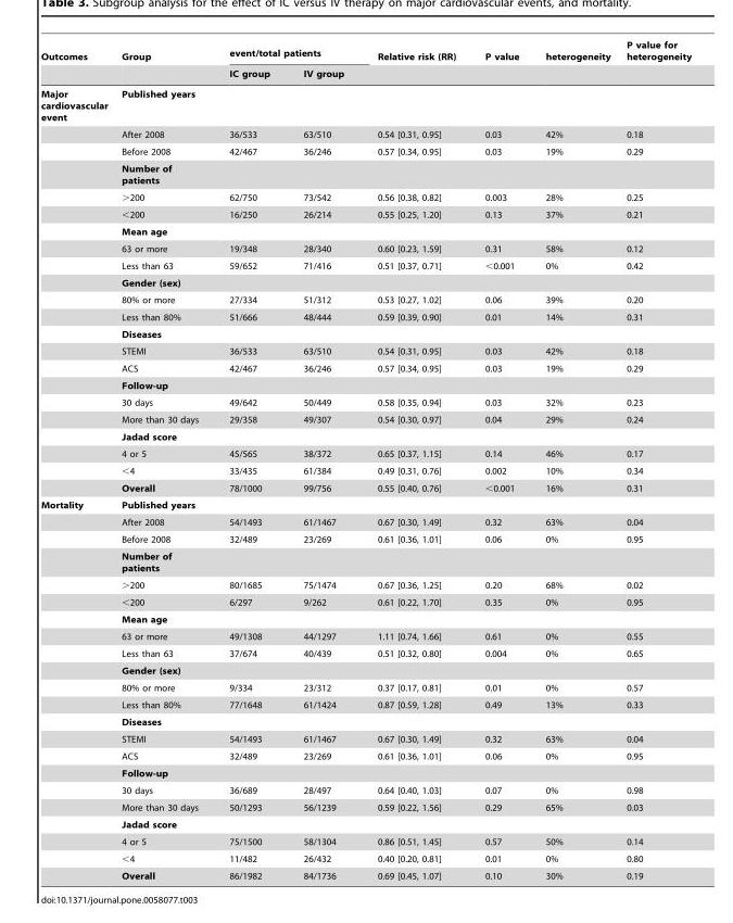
<table><thead><tr><td rowspan="2">Outcomes</td><td rowspan="2">Group</td><td colspan="2">event/total patients</td><td rowspan="2">Relative risk (RR)</td><td rowspan="2">P value</td><td rowspan="2">heterogeneity</td><td rowspan="2">P value for heterogeneity</td></tr><tr><td>IC group</td><td>IV group</td></tr></thead><tbody><tr><td rowspan="22">Major cardiovascular event</td><td colspan="7">Published years</td></tr><tr><td>After 2008</td><td>36/533</td><td>63/510</td><td>0.54 [0.31, 0.95]</td><td>0.03</td><td>42%</td><td>0.18</td></tr><tr><td>Before 2008</td><td>42/467</td><td>36/246</td><td>0.57 [0.34, 0.95]</td><td>0.03</td><td>19%</td><td>0.29</td></tr><tr><td colspan="7">Number of patients</td></tr><tr><td>&gt;200</td><td>62/750</td><td>73/542</td><td>0.56 [0.38, 0.82]</td><td>0.003</td><td>28%</td><td>0.25</td></tr><tr><td>&lt;200</td><td>16/250</td><td>26/214</td><td>0.55 [0.25, 1.20]</td><td>0.13</td><td>37%</td><td>0.21</td></tr><tr><td colspan="7">Mean age</td></tr><tr><td>63 or more</td><td>19/348</td><td>28/340</td><td>0.60 [0.23, 1.59]</td><td>0.31</td><td>58%</td><td>0.12</td></tr><tr><td>Less than 63</td><td>59/652</td><td>71/416</td><td>0.51 [0.37, 0.71]</td><td>&lt;0.001</td><td>0%</td><td>0.42</td></tr><tr><td colspan="7">Gender (sex)</td></tr><tr><td>80% or more</td><td>27/334</td><td>51/312</td><td>0.53 [0.27, 1.02]</td><td>0.06</td><td>39%</td><td>0.20</td></tr><tr><td>Less than 80%</td><td>51/666</td><td>48/444</td><td>0.59 [0.39, 0.90]</td><td>0.01</td><td>14%</td><td>0.31</td></tr><tr><td colspan="7">Diseases</td></tr><tr><td>STEMI</td><td>36/533</td><td>63/510</td><td>0.54 [0.31, 0.95]</td><td>0.03</td><td>42%</td><td>0.18</td></tr><tr><td>ACS</td><td>42/467</td><td>36/246</td><td>0.57 [0.34, 0.95]</td><td>0.03</td><td>19%</td><td>0.29</td></tr><tr><td colspan="7">Follow-up</td></tr><tr><td>30 days</td><td>49/642</td><td>50/449</td><td>0.58 [0.35, 0.94]</td><td>0.03</td><td>32%</td><td>0.23</td></tr><tr><td>More than 30 days</td><td>29/358</td><td>49/307</td><td>0.54 [0.30, 0.97]</td><td>0.04</td><td>29%</td><td>0.24</td></tr><tr><td colspan="7">Jadad score</td></tr><tr><td>4 or 5</td><td>45/565</td><td>38/372</td><td>0.65 [0.37, 1.15]</td><td>0.14</td><td>46%</td><td>0.17</td></tr><tr><td>&lt;4</td><td>33/435</td><td>61/384</td><td>0.49 [0.31, 0.76]</td><td>0.002</td><td>10%</td><td>0.34</td></tr><tr><td>Overall</td><td>78/1000</td><td>99/756</td><td>0.55 [0.40, 0.76]</td><td>&lt;0.001</td><td>16%</td><td>0.31</td></tr><tr><td rowspan="22">Mortality</td><td colspan="7">Published years</td></tr><tr><td>After 2008</td><td>54/1493</td><td>61/1467</td><td>0.67 [0.30, 1.49]</td><td>0.32</td><td>63%</td><td>0.04</td></tr><tr><td>Before 2008</td><td>32/489</td><td>23/269</td><td>0.61 [0.36, 1.01]</td><td>0.06</td><td>0%</td><td>0.95</td></tr><tr><td colspan="7">Number of patients</td></tr><tr><td>&gt;200</td><td>80/1685</td><td>75/1474</td><td>0.67 [0.36, 1.25]</td><td>0.20</td><td>68%</td><td>0.02</td></tr><tr><td>&lt;200</td><td>6/297</td><td>9/262</td><td>0.61 [0.22, 1.70]</td><td>0.35</td><td>0%</td><td>0.95</td></tr><tr><td colspan="7">Mean age</td></tr><tr><td>63 or more</td><td>49/1308</td><td>44/1297</td><td>1.11 [0.74, 1.66]</td><td>0.61</td><td>0%</td><td>0.55</td></tr><tr><td>Less than 63</td><td>37/674</td><td>40/439</td><td>0.51 [0.32, 0.80]</td><td>0.004</td><td>0%</td><td>0.65</td></tr><tr><td colspan="7">Gender (sex)</td></tr><tr><td>80% or more</td><td>9/334</td><td>23/312</td><td>0.37 [0.17, 0.81]</td><td>0.01</td><td>0%</td><td>0.57</td></tr><tr><td>Less than 80%</td><td>77/1648</td><td>61/1424</td><td>0.87 [0.59, 1.28]</td><td>0.49</td><td>13%</td><td>0.33</td></tr><tr><td colspan="7">Diseases</td></tr><tr><td>STEMI</td><td>54/1493</td><td>61/1467</td><td>0.67 [0.30, 1.49]</td><td>0.32</td><td>63%</td><td>0.04</td></tr><tr><td>ACS</td><td>32/489</td><td>23/269</td><td>0.61 [0.36, 1.01]</td><td>0.06</td><td>0%</td><td>0.95</td></tr><tr><td colspan="7">Follow-up</td></tr><tr><td>30 days</td><td>36/689</td><td>28/497</td><td>0.64 [0.40, 1.03]</td><td>0.07</td><td>0%</td><td>0.98</td></tr><tr><td>More than 30 days</td><td>50/1293</td><td>56/1239</td><td>0.59 [0.22, 1.56]</td><td>0.29</td><td>65%</td><td>0.03</td></tr><tr><td colspan="7">Jadad score</td></tr><tr><td>4 or 5</td><td>75/1500</td><td>58/1304</td><td>0.86 [0.51, 1.45]</td><td>0.57</td><td>50%</td><td>0.14</td></tr><tr><td>&lt;4</td><td>11/482</td><td>26/432</td><td>0.40 [0.20, 0.81]</td><td>0.01</td><td>0%</td><td>0.80</td></tr><tr><td>Overall</td><td>86/1982</td><td>84/1736</td><td>0.69 [0.45, 1.07]</td><td>0.10</td><td>30%</td><td>0.19</td></tr></tbody></table>